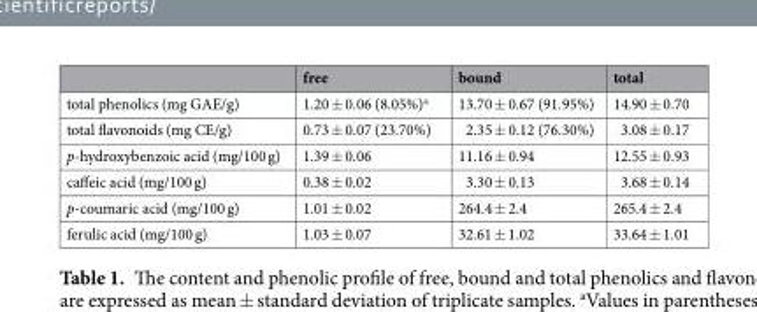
<table><thead><tr><td></td><td>free</td><td>bound</td><td>total</td></tr></thead><tbody><tr><td>total phenolics (mg GAE/g)</td><td>1.20 ± 0.06 (8.05%)<sup>a</sup></td><td>13.70 ± 0.67 (91.95%)</td><td>14.90 ± 0.70</td></tr><tr><td>total flavonoids (mg CE/g)</td><td>0.73 ± 0.07 (23.70%)</td><td>2.35 ± 0.12 (76.30%)</td><td>3.08 ± 0.17</td></tr><tr><td>p-hydroxybenzoic acid (mg/100 g)</td><td>1.39 ± 0.06</td><td>11.16 ± 0.94</td><td>12.55 ± 0.93</td></tr><tr><td>caffeic acid (mg/100 g)</td><td>0.38 ± 0.02</td><td>3.30 ± 0.13</td><td>3.68 ± 0.14</td></tr><tr><td>p-coumaric acid (mg/100 g)</td><td>1.01 ± 0.02</td><td>264.4 ± 2.4</td><td>265.4 ± 2.4</td></tr><tr><td>ferulic acid (mg/100 g)</td><td>1.03 ± 0.07</td><td>32.61 ± 1.02</td><td>33.64 ± 1.01</td></tr></tbody></table>